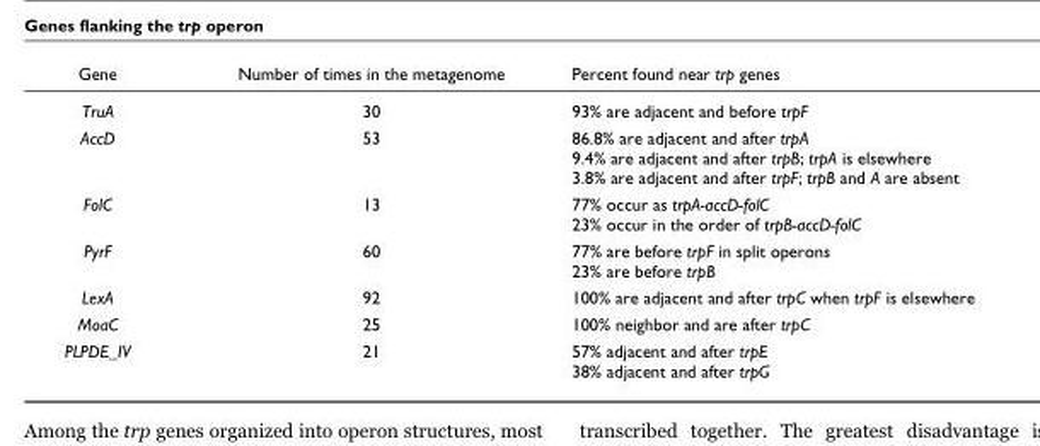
<table><thead><tr><td>Gene</td><td>Number of times in the metagenome</td><td>Percent found near trp genes</td></tr></thead><tbody><tr><td>TruA</td><td>30</td><td>93% are adjacent and before trpF</td></tr><tr><td>AccD</td><td>53</td><td>86.8% are adjacent and after trpA 9.4% are adjacent and after trpB; trpA is elsewhere 3.8% are adjacent and after trpF; trpB and A are absent</td></tr><tr><td>FolC</td><td>13</td><td>77% occur as trpA-accD-folC 23% occur in the order of trpB-accD-folC</td></tr><tr><td>PyrF</td><td>60</td><td>77% are before trpF in split operons 23% are before trpB</td></tr><tr><td>LexA</td><td>92</td><td>100% are adjacent and after trpC when trpF is elsewhere</td></tr><tr><td>MoaC</td><td>25</td><td>100% neighbor and are after trpC</td></tr><tr><td>PLPDE_IV</td><td>21</td><td>57% adjacent and after trpE 38% adjacent and after trpG</td></tr></tbody></table>